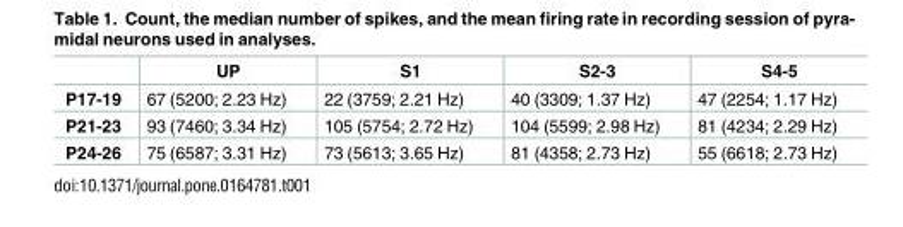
<table><thead><tr><td></td><td>UP</td><td>S1</td><td>S2-3</td><td>S4-5</td></tr></thead><tbody><tr><td>P17-19</td><td>67 (5200; 2.23 Hz)</td><td>22 (3759; 2.21 Hz)</td><td>40 (3309; 1.37 Hz)</td><td>47 (2254; 1.17 Hz)</td></tr><tr><td>P21-23</td><td>93 (7460; 3.34 Hz)</td><td>105 (5754; 2.72 Hz)</td><td>104 (5599; 2.98 Hz)</td><td>81 (4234; 2.29 Hz)</td></tr><tr><td>P24-26</td><td>75 (6587; 3.31 Hz)</td><td>73 (5613; 3.65 Hz)</td><td>81 (4358; 2.73 Hz)</td><td>55 (6618; 2.73 Hz)</td></tr></tbody></table>